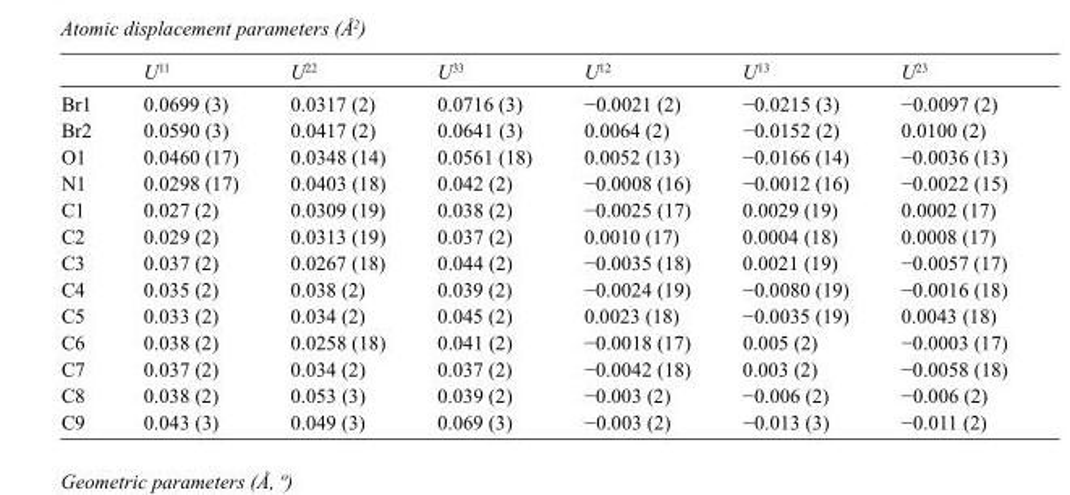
<table><thead><tr><td></td><td>U<sup>11</sup></td><td>U<sup>22</sup></td><td>U<sup>33</sup></td><td>U<sup>12</sup></td><td>U<sup>13</sup></td><td>U<sup>23</sup></td></tr></thead><tbody><tr><td>Br1</td><td>0.0699 (3)</td><td>0.0317 (2)</td><td>0.0716 (3)</td><td>−0.0021 (2)</td><td>−0.0215 (3)</td><td>−0.0097 (2)</td></tr><tr><td>Br2</td><td>0.0590 (3)</td><td>0.0417 (2)</td><td>0.0641 (3)</td><td>0.0064 (2)</td><td>−0.0152 (2)</td><td>0.0100 (2)</td></tr><tr><td>O1</td><td>0.0460 (17)</td><td>0.0348 (14)</td><td>0.0561 (18)</td><td>0.0052 (13)</td><td>−0.0166 (14)</td><td>−0.0036 (13)</td></tr><tr><td>N1</td><td>0.0298 (17)</td><td>0.0403 (18)</td><td>0.042 (2)</td><td>−0.0008 (16)</td><td>−0.0012 (16)</td><td>−0.0022 (15)</td></tr><tr><td>C1</td><td>0.027 (2)</td><td>0.0309 (19)</td><td>0.038 (2)</td><td>−0.0025 (17)</td><td>0.0029 (19)</td><td>0.0002 (17)</td></tr><tr><td>C2</td><td>0.029 (2)</td><td>0.0313 (19)</td><td>0.037 (2)</td><td>0.0010 (17)</td><td>0.0004 (18)</td><td>0.0008 (17)</td></tr><tr><td>C3</td><td>0.037 (2)</td><td>0.0267 (18)</td><td>0.044 (2)</td><td>−0.0035 (18)</td><td>0.0021 (19)</td><td>−0.0057 (17)</td></tr><tr><td>C4</td><td>0.035 (2)</td><td>0.038 (2)</td><td>0.039 (2)</td><td>−0.0024 (19)</td><td>−0.0080 (19)</td><td>−0.0016 (18)</td></tr><tr><td>C5</td><td>0.033 (2)</td><td>0.034 (2)</td><td>0.045 (2)</td><td>0.0023 (18)</td><td>−0.0035 (19)</td><td>0.0043 (18)</td></tr><tr><td>C6</td><td>0.038 (2)</td><td>0.0258 (18)</td><td>0.041 (2)</td><td>−0.0018 (17)</td><td>0.005 (2)</td><td>−0.0003 (17)</td></tr><tr><td>C7</td><td>0.037 (2)</td><td>0.034 (2)</td><td>0.037 (2)</td><td>−0.0042 (18)</td><td>0.003 (2)</td><td>−0.0058 (18)</td></tr><tr><td>C8</td><td>0.038 (2)</td><td>0.053 (3)</td><td>0.039 (2)</td><td>−0.003 (2)</td><td>−0.006 (2)</td><td>−0.006 (2)</td></tr><tr><td>C9</td><td>0.043 (3)</td><td>0.049 (3)</td><td>0.069 (3)</td><td>−0.003 (2)</td><td>−0.013 (3)</td><td>−0.011 (2)</td></tr></tbody></table>